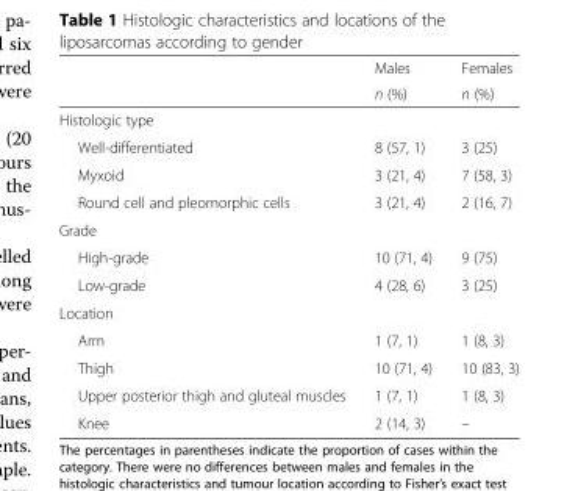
<table><thead><tr><td rowspan="2"></td><td rowspan="2">Males n (%)</td><td rowspan="2">Females n (%)</td></tr><tr></tr></thead><tbody><tr><td colspan="3">Histologic type</td></tr><tr><td>Well-differentiated</td><td>8 (57, 1)</td><td>3 (25)</td></tr><tr><td>Myxoid</td><td>3 (21, 4)</td><td>7 (58, 3)</td></tr><tr><td>Round cell and pleomorphic cells</td><td>3 (21, 4)</td><td>2 (16, 7)</td></tr><tr><td colspan="3">Grade</td></tr><tr><td>High-grade</td><td>10 (71, 4)</td><td>9 (75)</td></tr><tr><td>Low-grade</td><td>4 (28, 6)</td><td>3 (25)</td></tr><tr><td colspan="3">Location</td></tr><tr><td>Arm</td><td>1 (7, 1)</td><td>1 (8, 3)</td></tr><tr><td>Thigh</td><td>10 (71, 4)</td><td>10 (83, 3)</td></tr><tr><td>Upper posterior thigh and gluteal muscles</td><td>1 (7, 1)</td><td>1 (8, 3)</td></tr><tr><td>Knee</td><td>2 (14, 3)</td><td>–</td></tr></tbody></table>